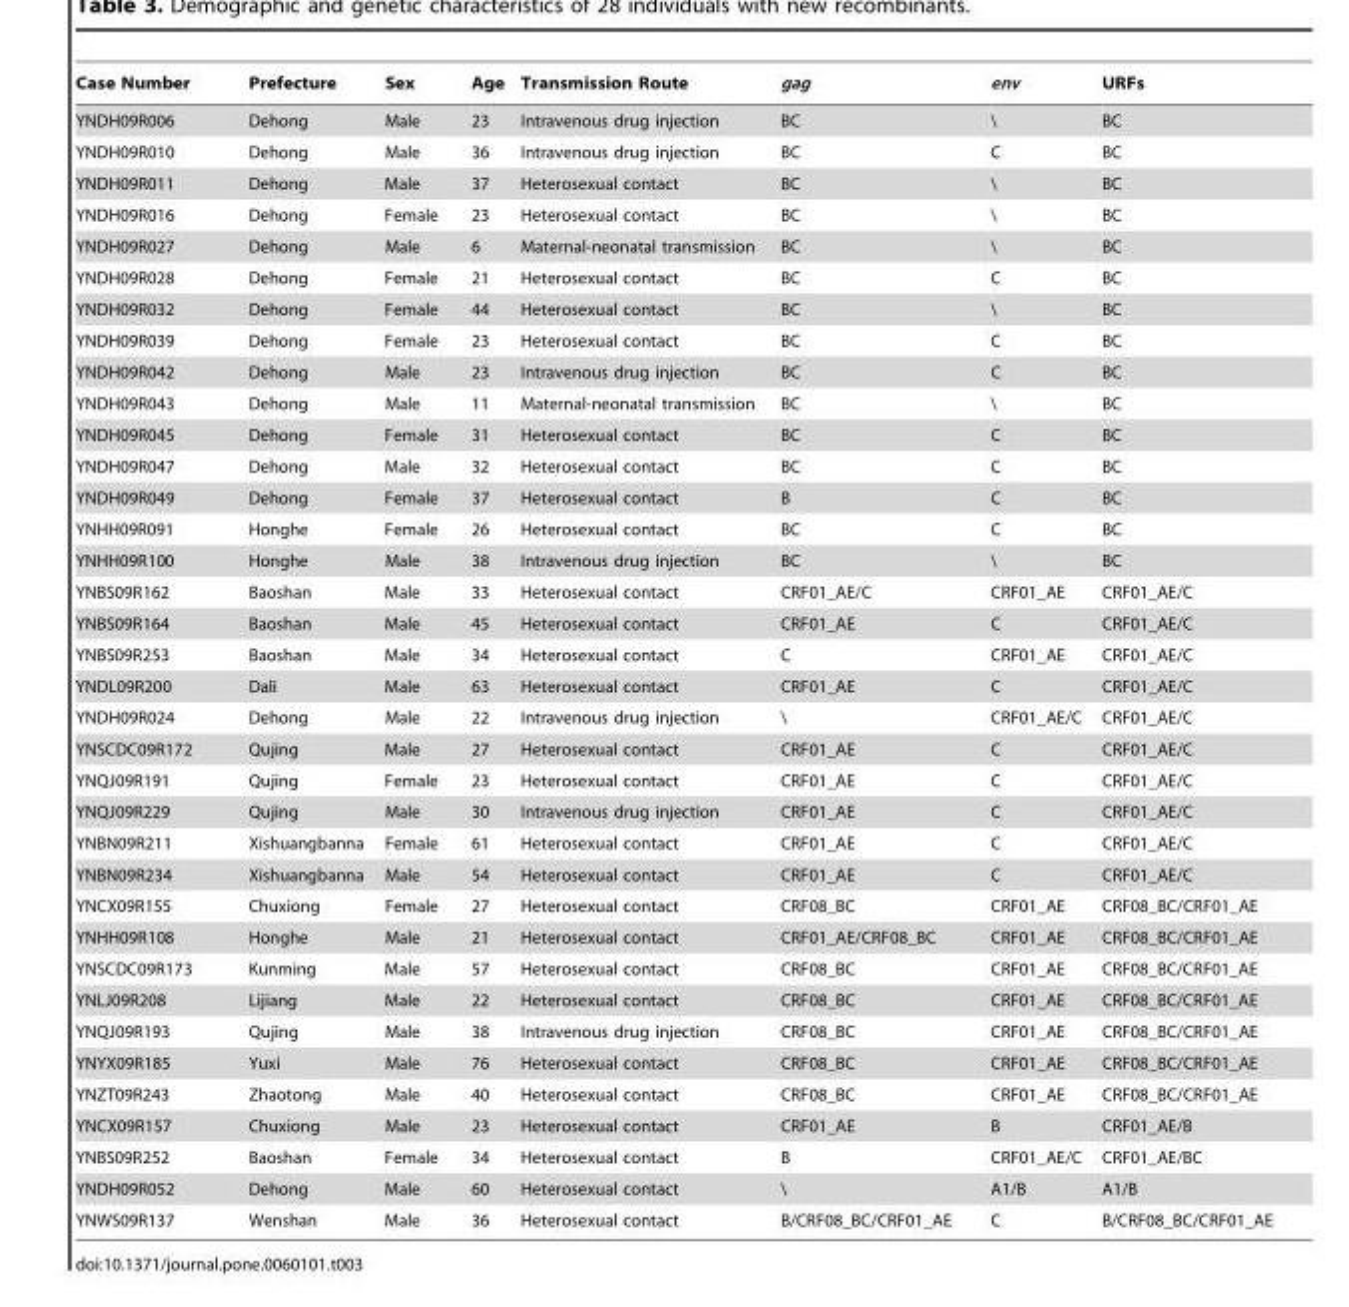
<table><thead><tr><td>Case Number</td><td>Prefecture</td><td>Sex</td><td>Age</td><td>Transmission Route</td><td>gag</td><td>env</td><td>URFs</td></tr></thead><tbody><tr><td>YNDH09R006</td><td>Dehong</td><td>Male</td><td>23</td><td>Intravenous drug injection</td><td>BC</td><td>\</td><td>BC</td></tr><tr><td>YNDH09R010</td><td>Dehong</td><td>Male</td><td>36</td><td>Intravenous drug injection</td><td>BC</td><td>C</td><td>BC</td></tr><tr><td>YNDH09R011</td><td>Dehong</td><td>Male</td><td>37</td><td>Heterosexual contact</td><td>BC</td><td>\</td><td>BC</td></tr><tr><td>YNDH09R016</td><td>Dehong</td><td>Female</td><td>23</td><td>Heterosexual contact</td><td>BC</td><td>\</td><td>BC</td></tr><tr><td>YNDH09R027</td><td>Dehong</td><td>Male</td><td>6</td><td>Maternal-neonatal transmission</td><td>BC</td><td>\</td><td>BC</td></tr><tr><td>YNDH09R028</td><td>Dehong</td><td>Female</td><td>21</td><td>Heterosexual contact</td><td>BC</td><td>C</td><td>BC</td></tr><tr><td>YNDH09R032</td><td>Dehong</td><td>Female</td><td>44</td><td>Heterosexual contact</td><td>BC</td><td>\</td><td>BC</td></tr><tr><td>YNDH09R039</td><td>Dehong</td><td>Female</td><td>23</td><td>Heterosexual contact</td><td>BC</td><td>C</td><td>BC</td></tr><tr><td>YNDH09R042</td><td>Dehong</td><td>Male</td><td>23</td><td>Intravenous drug injection</td><td>BC</td><td>C</td><td>BC</td></tr><tr><td>YNDH09R043</td><td>Dehong</td><td>Male</td><td>11</td><td>Maternal-neonatal transmission</td><td>BC</td><td>\</td><td>BC</td></tr><tr><td>YNDH09R045</td><td>Dehong</td><td>Female</td><td>31</td><td>Heterosexual contact</td><td>BC</td><td>C</td><td>BC</td></tr><tr><td>YNDH09R047</td><td>Dehong</td><td>Male</td><td>32</td><td>Heterosexual contact</td><td>BC</td><td>C</td><td>BC</td></tr><tr><td>YNDH09R049</td><td>Dehong</td><td>Female</td><td>37</td><td>Heterosexual contact</td><td>B</td><td>C</td><td>BC</td></tr><tr><td>YNHH09R091</td><td>Honghe</td><td>Female</td><td>26</td><td>Heterosexual contact</td><td>BC</td><td>C</td><td>BC</td></tr><tr><td>YNHH09R100</td><td>Honghe</td><td>Male</td><td>38</td><td>Intravenous drug injection</td><td>BC</td><td>\</td><td>BC</td></tr><tr><td>YNBS09R162</td><td>Baoshan</td><td>Male</td><td>33</td><td>Heterosexual contact</td><td>CRF01_AE/C</td><td>CRF01_AE</td><td>CRF01_AE/C</td></tr><tr><td>YNBS09R164</td><td>Baoshan</td><td>Male</td><td>45</td><td>Heterosexual contact</td><td>CRF01_AE</td><td>C</td><td>CRF01_AE/C</td></tr><tr><td>YNBS09R253</td><td>Baoshan</td><td>Male</td><td>34</td><td>Heterosexual contact</td><td>C</td><td>CRF01_AE</td><td>CRF01_AE/C</td></tr><tr><td>YNDL09R200</td><td>Dali</td><td>Male</td><td>63</td><td>Heterosexual contact</td><td>CRF01_AE</td><td>C</td><td>CRF01_AE/C</td></tr><tr><td>YNDH09R024</td><td>Dehong</td><td>Male</td><td>22</td><td>Intravenous drug injection</td><td>\</td><td>CRF01_AE/C</td><td>CRF01_AE/C</td></tr><tr><td>YNSCDC09R172</td><td>Qujing</td><td>Male</td><td>27</td><td>Heterosexual contact</td><td>CRF01_AE</td><td>C</td><td>CRF01_AE/C</td></tr><tr><td>YNQJ09R191</td><td>Qujing</td><td>Female</td><td>23</td><td>Heterosexual contact</td><td>CRF01_AE</td><td>C</td><td>CRF01_AE/C</td></tr><tr><td>YNQJ09R229</td><td>Qujing</td><td>Male</td><td>30</td><td>Intravenous drug injection</td><td>CRF01_AE</td><td>C</td><td>CRF01_AE/C</td></tr><tr><td>YNBN09R211</td><td>Xishuangbanna</td><td>Female</td><td>61</td><td>Heterosexual contact</td><td>CRF01_AE</td><td>C</td><td>CRF01_AE/C</td></tr><tr><td>YNBN09R234</td><td>Xishuangbanna</td><td>Male</td><td>54</td><td>Heterosexual contact</td><td>CRF01_AE</td><td>C</td><td>CRF01_AE/C</td></tr><tr><td>YNCX09R155</td><td>Chuxiong</td><td>Female</td><td>27</td><td>Heterosexual contact</td><td>CRF08_BC</td><td>CRF01_AE</td><td>CRF08_BC/CRF01_AE</td></tr><tr><td>YNHH09R108</td><td>Honghe</td><td>Male</td><td>21</td><td>Heterosexual contact</td><td>CRF01_AE/CRF08_BC</td><td>CRF01_AE</td><td>CRF08_BC/CRF01_AE</td></tr><tr><td>YNSCDC09R173</td><td>Kunming</td><td>Male</td><td>57</td><td>Heterosexual contact</td><td>CRF08_BC</td><td>CRF01_AE</td><td>CRF08_BC/CRF01_AE</td></tr><tr><td>YNLJ09R208</td><td>Lijiang</td><td>Male</td><td>22</td><td>Heterosexual contact</td><td>CRF08_BC</td><td>CRF01_AE</td><td>CRF08_BC/CRF01_AE</td></tr><tr><td>YNQJ09R193</td><td>Qujing</td><td>Male</td><td>38</td><td>Intravenous drug injection</td><td>CRF08_BC</td><td>CRF01_AE</td><td>CRF08_BC/CRF01_AE</td></tr><tr><td>YNYX09R185</td><td>Yuxi</td><td>Male</td><td>76</td><td>Heterosexual contact</td><td>CRF08_BC</td><td>CRF01_AE</td><td>CRF08_BC/CRF01_AE</td></tr><tr><td>YNZT09R243</td><td>Zhaotong</td><td>Male</td><td>40</td><td>Heterosexual contact</td><td>CRF08_BC</td><td>CRF01_AE</td><td>CRF08_BC/CRF01_AE</td></tr><tr><td>YNCX09R157</td><td>Chuxiong</td><td>Male</td><td>23</td><td>Heterosexual contact</td><td>CRF01_AE</td><td>B</td><td>CRF01_AE/B</td></tr><tr><td>YNBS09R252</td><td>Baoshan</td><td>Female</td><td>34</td><td>Heterosexual contact</td><td>B</td><td>CRF01_AE/C</td><td>CRF01_AE/BC</td></tr><tr><td>YNDH09R052</td><td>Dehong</td><td>Male</td><td>60</td><td>Heterosexual contact</td><td>\</td><td>A1/B</td><td>A1/B</td></tr><tr><td>YNWS09R137</td><td>Wenshan</td><td>Male</td><td>36</td><td>Heterosexual contact</td><td>B/CRF08_BC/CRF01_AE</td><td>C</td><td>B/CRF08_BC/CRF01_AE</td></tr></tbody></table>